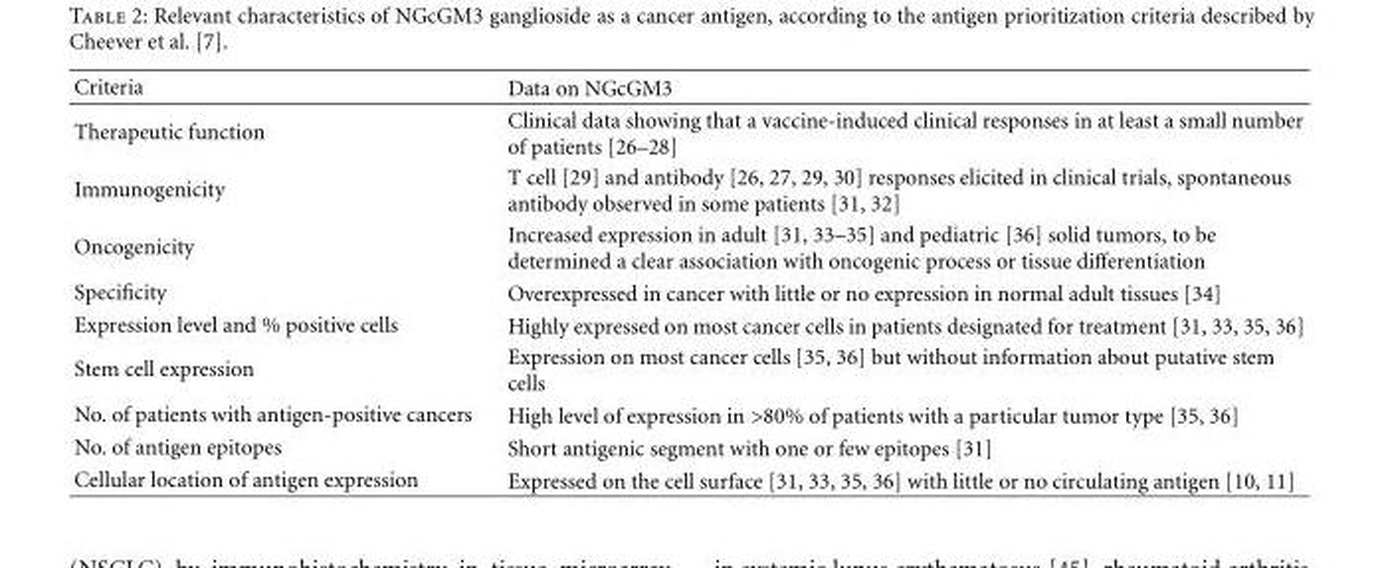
<table><thead><tr><td>Criteria</td><td>Data on NGcGM3</td></tr></thead><tbody><tr><td>Therapeutic function</td><td>Clinical data showing that a vaccine-induced clinical responses in at least a small number of patients [26–28]</td></tr><tr><td>Immunogenicity</td><td>T cell [29] and antibody [26, 27, 29, 30] responses elicited in clinical trials, spontaneous antibody observed in some patients [31, 32]</td></tr><tr><td>Oncogenicity</td><td>Increased expression in adult [31, 33–35] and pediatric [36] solid tumors, to be determined a clear association with oncogenic process or tissue differentiation</td></tr><tr><td>Specificity</td><td>Overexpressed in cancer with little or no expression in normal adult tissues [34]</td></tr><tr><td>Expression level and % positive cells</td><td>Highly expressed on most cancer cells in patients designated for treatment [31, 33, 35, 36]</td></tr><tr><td>Stem cell expression</td><td>Expression on most cancer cells [35, 36] but without information about putative stem cells</td></tr><tr><td>No. of patients with antigen-positive cancers</td><td>High level of expression in &gt;80% of patients with a particular tumor type [35, 36]</td></tr><tr><td>No. of antigen epitopes</td><td>Short antigenic segment with one or few epitopes [31]</td></tr><tr><td>Cellular location of antigen expression</td><td>Expressed on the cell surface [31, 33, 35, 36] with little or no circulating antigen [10, 11]</td></tr></tbody></table>